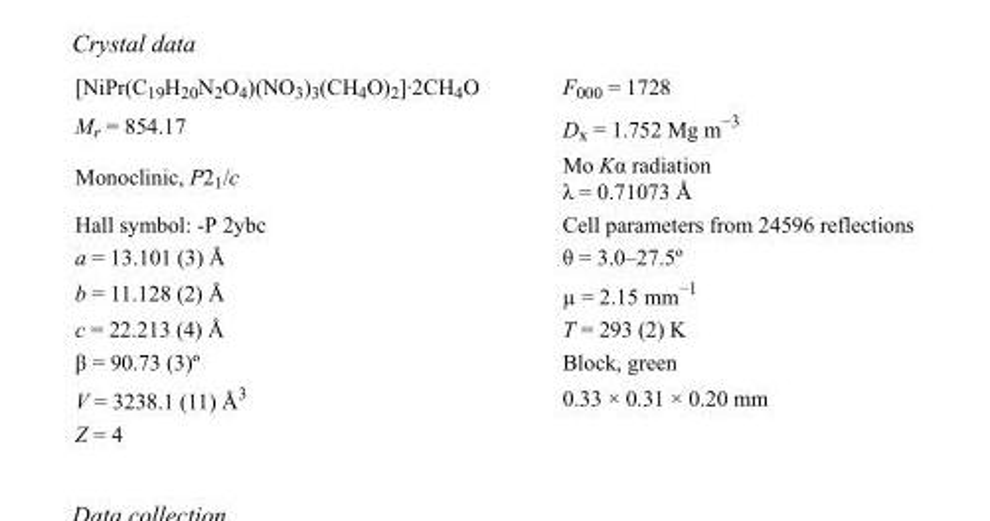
<table><tbody><tr><td>[NiPr(C<sub>19</sub>H<sub>20</sub>N<sub>2</sub>O<sub>4</sub>)(NO<sub>3</sub>)<sub>3</sub>(CH<sub>4</sub>O)<sub>2</sub>]·2CH<sub>4</sub>O</td><td>F<sub>000</sub> = 1728</td></tr><tr><td>M<sub>r</sub> = 854.17</td><td>D<sub>x</sub> = 1.752 Mg m<sup>−3</sup></td></tr><tr><td>Monoclinic, P2<sub>1</sub>/c</td><td>Mo Kα radiation λ = 0.71073 Å</td></tr><tr><td>Hall symbol: -P 2ybc</td><td>Cell parameters from 24596 reflections</td></tr><tr><td>a = 13.101 (3) Å</td><td>θ = 3.0–27.5º</td></tr><tr><td>b = 11.128 (2) Å</td><td>µ = 2.15 mm<sup>−1</sup></td></tr><tr><td>c = 22.213 (4) Å</td><td>T = 293 (2) K</td></tr><tr><td>β = 90.73 (3)º</td><td>Block, green</td></tr><tr><td>V = 3238.1 (11) Å<sup>3</sup></td><td>0.33 × 0.31 × 0.20 mm</td></tr><tr><td>Z = 4</td><td></td></tr></tbody></table>